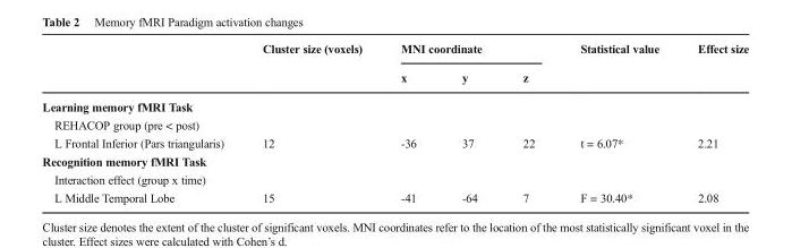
<table><thead><tr><td rowspan="2"></td><td rowspan="2">Cluster size (voxels)</td><td colspan="3">MNI coordinate</td><td rowspan="2">Statistical value</td><td rowspan="2">Effect size</td></tr><tr><td>x</td><td>y</td><td>z</td></tr></thead><tbody><tr><td colspan="7">Learning memory fMRI Task</td></tr><tr><td colspan="7">REHACOP group (pre &lt; post)</td></tr><tr><td>L Frontal Inferior (Pars triangularis)</td><td>12</td><td>-36</td><td>37</td><td>22</td><td>t = 6.07*</td><td>2.21</td></tr><tr><td colspan="7">Recognition memory fMRI Task</td></tr><tr><td colspan="7">Interaction effect (group x time)</td></tr><tr><td>L Middle Temporal Lobe</td><td>15</td><td>-41</td><td>-64</td><td>7</td><td>F = 30.40*</td><td>2.08</td></tr></tbody></table>